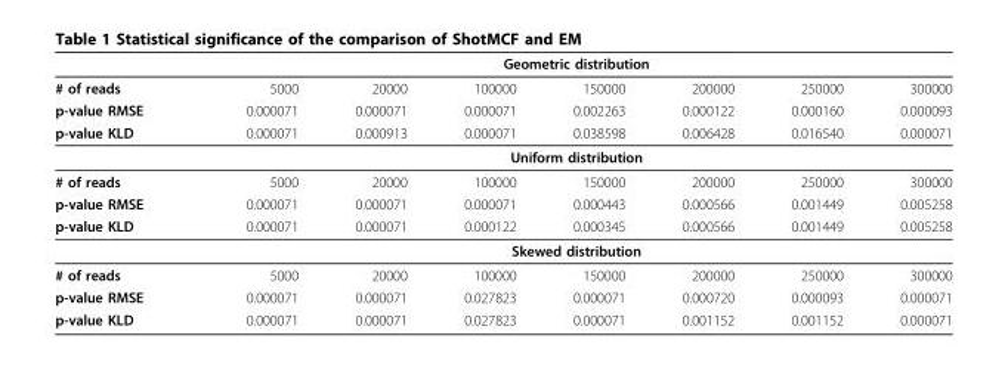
<table><thead><tr><td rowspan="2"># of reads</td><td colspan="7">Geometric distribution</td></tr><tr><td>5000</td><td>20000</td><td>100000</td><td>150000</td><td>200000</td><td>250000</td><td>300000</td></tr></thead><tbody><tr><td>p-value RMSE</td><td>0.000071</td><td>0.000071</td><td>0.000071</td><td>0.002263</td><td>0.000122</td><td>0.000160</td><td>0.000093</td></tr><tr><td rowspan="2">p-value KLD</td><td>0.000071</td><td>0.000913</td><td>0.000071</td><td>0.038598</td><td>0.006428</td><td>0.016540</td><td>0.000071</td></tr><tr><td colspan="7">Uniform distribution</td></tr><tr><td># of reads</td><td>5000</td><td>20000</td><td>100000</td><td>150000</td><td>200000</td><td>250000</td><td>300000</td></tr><tr><td>p-value RMSE</td><td>0.000071</td><td>0.000071</td><td>0.000071</td><td>0.000443</td><td>0.000566</td><td>0.001449</td><td>0.005258</td></tr><tr><td rowspan="2">p-value KLD</td><td>0.000071</td><td>0.000071</td><td>0.000122</td><td>0.000345</td><td>0.000566</td><td>0.001449</td><td>0.005258</td></tr><tr><td colspan="7">Skewed distribution</td></tr><tr><td># of reads</td><td>5000</td><td>20000</td><td>100000</td><td>150000</td><td>200000</td><td>250000</td><td>300000</td></tr><tr><td>p-value RMSE</td><td>0.000071</td><td>0.000071</td><td>0.027823</td><td>0.000071</td><td>0.000720</td><td>0.000093</td><td>0.000071</td></tr><tr><td>p-value KLD</td><td>0.000071</td><td>0.000071</td><td>0.027823</td><td>0.000071</td><td>0.001152</td><td>0.001152</td><td>0.000071</td></tr></tbody></table>